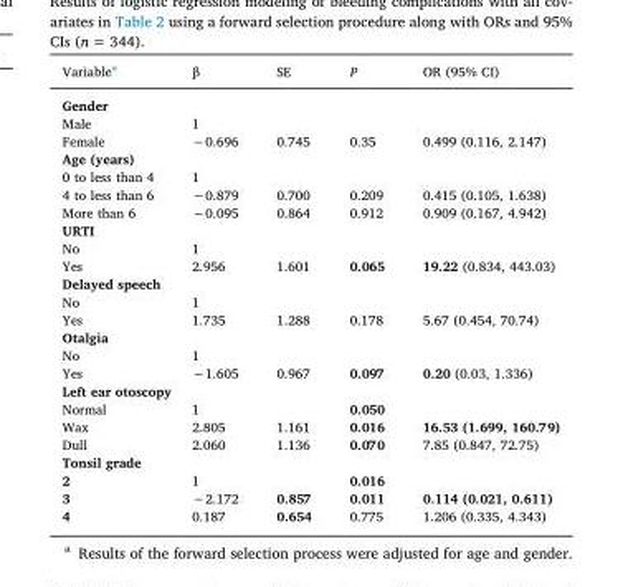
<table><thead><tr><td>Variable<sup>a</sup></td><td>β</td><td>SE</td><td>P</td><td>OR (95% CI)</td></tr></thead><tbody><tr><td colspan="5">Gender</td></tr><tr><td>Male</td><td>1</td><td></td><td></td><td></td></tr><tr><td>Female</td><td>−0.696</td><td>0.745</td><td>0.35</td><td>0.499 (0.116, 2.147)</td></tr><tr><td colspan="5">Age (years)</td></tr><tr><td>0 to less than 4</td><td>1</td><td></td><td></td><td></td></tr><tr><td>4 to less than 6</td><td>−0.879</td><td>0.700</td><td>0.209</td><td>0.415 (0.105, 1.638)</td></tr><tr><td>More than 6</td><td>−0.095</td><td>0.864</td><td>0.912</td><td>0.909 (0.167, 4.942)</td></tr><tr><td colspan="5">URTI</td></tr><tr><td>No</td><td>1</td><td></td><td></td><td></td></tr><tr><td>Yes</td><td>2.956</td><td>1.601</td><td>0.065</td><td>19.22 (0.834, 443.03)</td></tr><tr><td colspan="5">Delayed speech</td></tr><tr><td>No</td><td>1</td><td></td><td></td><td></td></tr><tr><td>Yes</td><td>1.735</td><td>1.288</td><td>0.178</td><td>5.67 (0.454, 70.74)</td></tr><tr><td colspan="5">Otalgia</td></tr><tr><td>No</td><td>1</td><td></td><td></td><td></td></tr><tr><td>Yes</td><td>−1.605</td><td>0.967</td><td>0.097</td><td>0.20 (0.03, 1.336)</td></tr><tr><td colspan="5">Left ear otoscopy</td></tr><tr><td>Normal</td><td>1</td><td></td><td>0.050</td><td></td></tr><tr><td>Wax</td><td>2.805</td><td>1.161</td><td>0.016</td><td>16.53 (1.699, 160.79)</td></tr><tr><td>Dull</td><td>2.060</td><td>1.136</td><td>0.070</td><td>7.85 (0.847, 72.75)</td></tr><tr><td colspan="5">Tonsil grade</td></tr><tr><td>2</td><td>1</td><td></td><td>0.016</td><td></td></tr><tr><td>3</td><td>−2.172</td><td>0.857</td><td>0.011</td><td>0.114 (0.021, 0.611)</td></tr><tr><td>4</td><td>0.187</td><td>0.654</td><td>0.775</td><td>1.206 (0.335, 4.343)</td></tr></tbody></table>